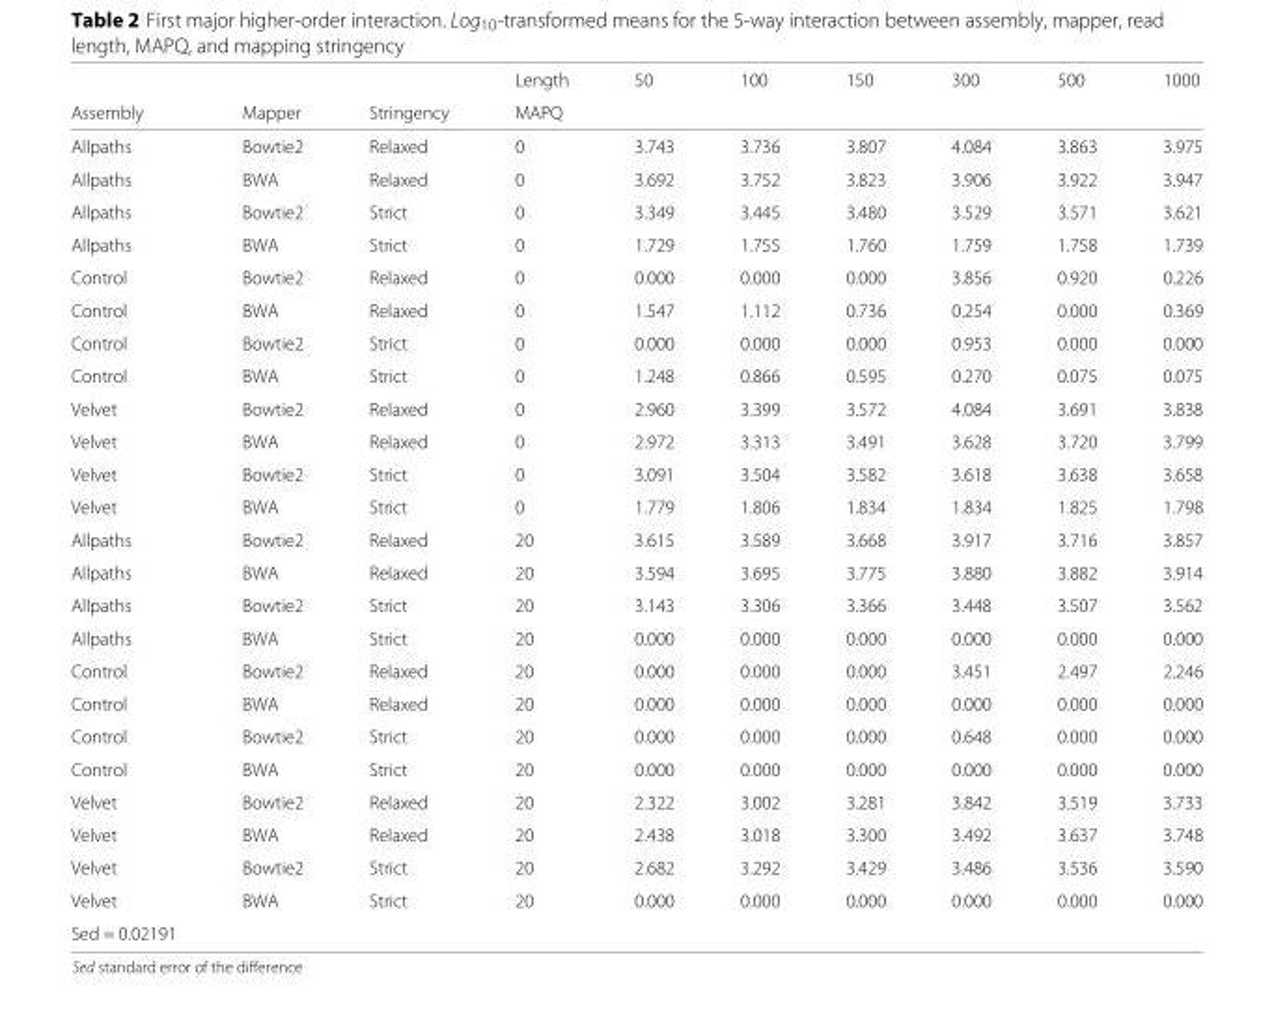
<table><thead><tr><td rowspan="2">Assembly</td><td rowspan="2">Mapper</td><td rowspan="2">Stringency</td><td rowspan="2">Length MAPQ</td><td rowspan="2">50</td><td rowspan="2">100</td><td rowspan="2">150</td><td rowspan="2">300</td><td rowspan="2">500</td><td rowspan="2">1000</td></tr><tr></tr></thead><tbody><tr><td>Allpaths</td><td>Bowtie2</td><td>Relaxed</td><td>0</td><td>3.743</td><td>3.736</td><td>3.807</td><td>4.084</td><td>3.863</td><td>3.975</td></tr><tr><td>Allpaths</td><td>BWA</td><td>Relaxed</td><td>0</td><td>3.692</td><td>3.752</td><td>3.823</td><td>3.906</td><td>3.922</td><td>3.947</td></tr><tr><td>Allpaths</td><td>Bowtie2</td><td>Strict</td><td>0</td><td>3.349</td><td>3.445</td><td>3.480</td><td>3.529</td><td>3.571</td><td>3.621</td></tr><tr><td>Allpaths</td><td>BWA</td><td>Strict</td><td>0</td><td>1.729</td><td>1.755</td><td>1.760</td><td>1.759</td><td>1.758</td><td>1.739</td></tr><tr><td>Control</td><td>Bowtie2</td><td>Relaxed</td><td>0</td><td>0.000</td><td>0.000</td><td>0.000</td><td>3.856</td><td>0.920</td><td>0.226</td></tr><tr><td>Control</td><td>BWA</td><td>Relaxed</td><td>0</td><td>1.547</td><td>1.112</td><td>0.736</td><td>0.254</td><td>0.000</td><td>0.369</td></tr><tr><td>Control</td><td>Bowtie2</td><td>Strict</td><td>0</td><td>0.000</td><td>0.000</td><td>0.000</td><td>0.953</td><td>0.000</td><td>0.000</td></tr><tr><td>Control</td><td>BWA</td><td>Strict</td><td>0</td><td>1.248</td><td>0.866</td><td>0.595</td><td>0.270</td><td>0.075</td><td>0.075</td></tr><tr><td>Velvet</td><td>Bowtie2</td><td>Relaxed</td><td>0</td><td>2.960</td><td>3.399</td><td>3.572</td><td>4.084</td><td>3.691</td><td>3.838</td></tr><tr><td>Velvet</td><td>BWA</td><td>Relaxed</td><td>0</td><td>2.972</td><td>3.313</td><td>3.491</td><td>3.628</td><td>3.720</td><td>3.799</td></tr><tr><td>Velvet</td><td>Bowtie2</td><td>Strict</td><td>0</td><td>3.091</td><td>3.504</td><td>3.582</td><td>3.618</td><td>3.638</td><td>3.658</td></tr><tr><td>Velvet</td><td>BWA</td><td>Strict</td><td>0</td><td>1.779</td><td>1.806</td><td>1.834</td><td>1.834</td><td>1.825</td><td>1.798</td></tr><tr><td>Allpaths</td><td>Bowtie2</td><td>Relaxed</td><td>20</td><td>3.615</td><td>3.589</td><td>3.668</td><td>3.917</td><td>3.716</td><td>3.857</td></tr><tr><td>Allpaths</td><td>BWA</td><td>Relaxed</td><td>20</td><td>3.594</td><td>3.695</td><td>3.775</td><td>3.880</td><td>3.882</td><td>3.914</td></tr><tr><td>Allpaths</td><td>Bowtie2</td><td>Strict</td><td>20</td><td>3.143</td><td>3.306</td><td>3.366</td><td>3.448</td><td>3.507</td><td>3.562</td></tr><tr><td>Allpaths</td><td>BWA</td><td>Strict</td><td>20</td><td>0.000</td><td>0.000</td><td>0.000</td><td>0.000</td><td>0.000</td><td>0.000</td></tr><tr><td>Control</td><td>Bowtie2</td><td>Relaxed</td><td>20</td><td>0.000</td><td>0.000</td><td>0.000</td><td>3.451</td><td>2.497</td><td>2.246</td></tr><tr><td>Control</td><td>BWA</td><td>Relaxed</td><td>20</td><td>0.000</td><td>0.000</td><td>0.000</td><td>0.000</td><td>0.000</td><td>0.000</td></tr><tr><td>Control</td><td>Bowtie2</td><td>Strict</td><td>20</td><td>0.000</td><td>0.000</td><td>0.000</td><td>0.648</td><td>0.000</td><td>0.000</td></tr><tr><td>Control</td><td>BWA</td><td>Strict</td><td>20</td><td>0.000</td><td>0.000</td><td>0.000</td><td>0.000</td><td>0.000</td><td>0.000</td></tr><tr><td>Velvet</td><td>Bowtie2</td><td>Relaxed</td><td>20</td><td>2.322</td><td>3.002</td><td>3.281</td><td>3.842</td><td>3.519</td><td>3.733</td></tr><tr><td>Velvet</td><td>BWA</td><td>Relaxed</td><td>20</td><td>2.438</td><td>3.018</td><td>3.300</td><td>3.492</td><td>3.637</td><td>3.748</td></tr><tr><td>Velvet</td><td>Bowtie2</td><td>Strict</td><td>20</td><td>2.682</td><td>3.292</td><td>3.429</td><td>3.486</td><td>3.536</td><td>3.590</td></tr><tr><td>Velvet</td><td>BWA</td><td>Strict</td><td>20</td><td>0.000</td><td>0.000</td><td>0.000</td><td>0.000</td><td>0.000</td><td>0.000</td></tr><tr><td>Sed = 0.02191</td><td></td><td></td><td></td><td></td><td></td><td></td><td></td><td></td><td></td></tr></tbody></table>